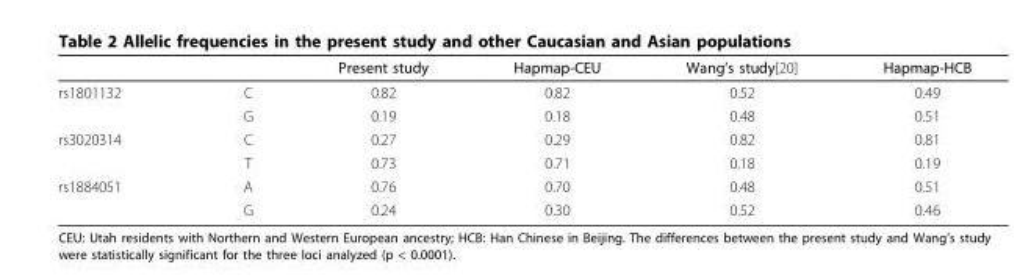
<table><thead><tr><td></td><td></td><td>Present study</td><td>Hapmap-CEU</td><td>Wang’s study[20]</td><td>Hapmap-HCB</td></tr></thead><tbody><tr><td rowspan="2">rs1801132</td><td>C</td><td>0.82</td><td>0.82</td><td>0.52</td><td>0.49</td></tr><tr><td>G</td><td>0.19</td><td>0.18</td><td>0.48</td><td>0.51</td></tr><tr><td rowspan="2">rs3020314</td><td>C</td><td>0.27</td><td>0.29</td><td>0.82</td><td>0.81</td></tr><tr><td>T</td><td>0.73</td><td>0.71</td><td>0.18</td><td>0.19</td></tr><tr><td rowspan="2">rs1884051</td><td>A</td><td>0.76</td><td>0.70</td><td>0.48</td><td>0.51</td></tr><tr><td>G</td><td>0.24</td><td>0.30</td><td>0.52</td><td>0.46</td></tr></tbody></table>